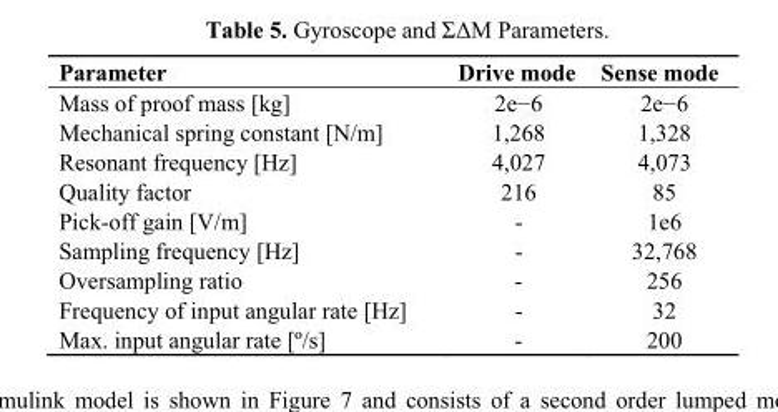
<table><thead><tr><td>Parameter</td><td>Drive mode</td><td>Sense mode</td></tr></thead><tbody><tr><td>Mass of proof mass [kg]</td><td>2e−6</td><td>2e−6</td></tr><tr><td>Mechanical spring constant [N/m]</td><td>1,268</td><td>1,328</td></tr><tr><td>Resonant frequency [Hz]</td><td>4,027</td><td>4,073</td></tr><tr><td>Quality factor</td><td>216</td><td>85</td></tr><tr><td>Pick-off gain [V/m]</td><td>-</td><td>1e6</td></tr><tr><td>Sampling frequency [Hz]</td><td>-</td><td>32,768</td></tr><tr><td>Oversampling ratio</td><td>-</td><td>256</td></tr><tr><td>Frequency of input angular rate [Hz]</td><td>-</td><td>32</td></tr><tr><td>Max. input angular rate [º/s]</td><td>-</td><td>200</td></tr></tbody></table>